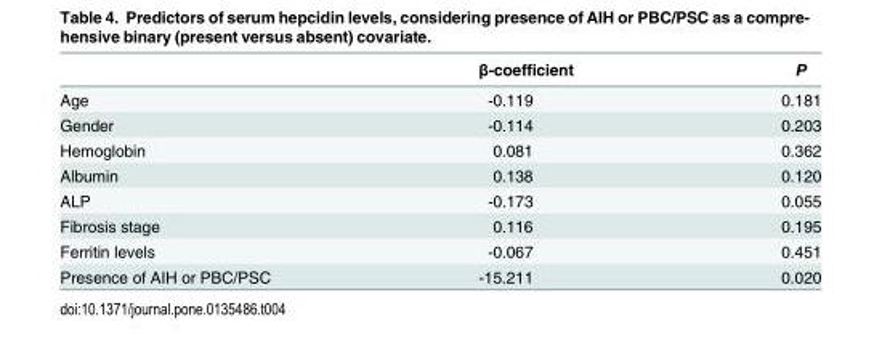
<table><thead><tr><td></td><td>β-coefficient</td><td>P</td></tr></thead><tbody><tr><td>Age</td><td>-0.119</td><td>0.181</td></tr><tr><td>Gender</td><td>-0.114</td><td>0.203</td></tr><tr><td>Hemoglobin</td><td>0.081</td><td>0.362</td></tr><tr><td>Albumin</td><td>0.138</td><td>0.120</td></tr><tr><td>ALP</td><td>-0.173</td><td>0.055</td></tr><tr><td>Fibrosis stage</td><td>0.116</td><td>0.195</td></tr><tr><td>Ferritin levels</td><td>-0.067</td><td>0.451</td></tr><tr><td>Presence of AIH or PBC/PSC</td><td>-15.211</td><td>0.020</td></tr></tbody></table>